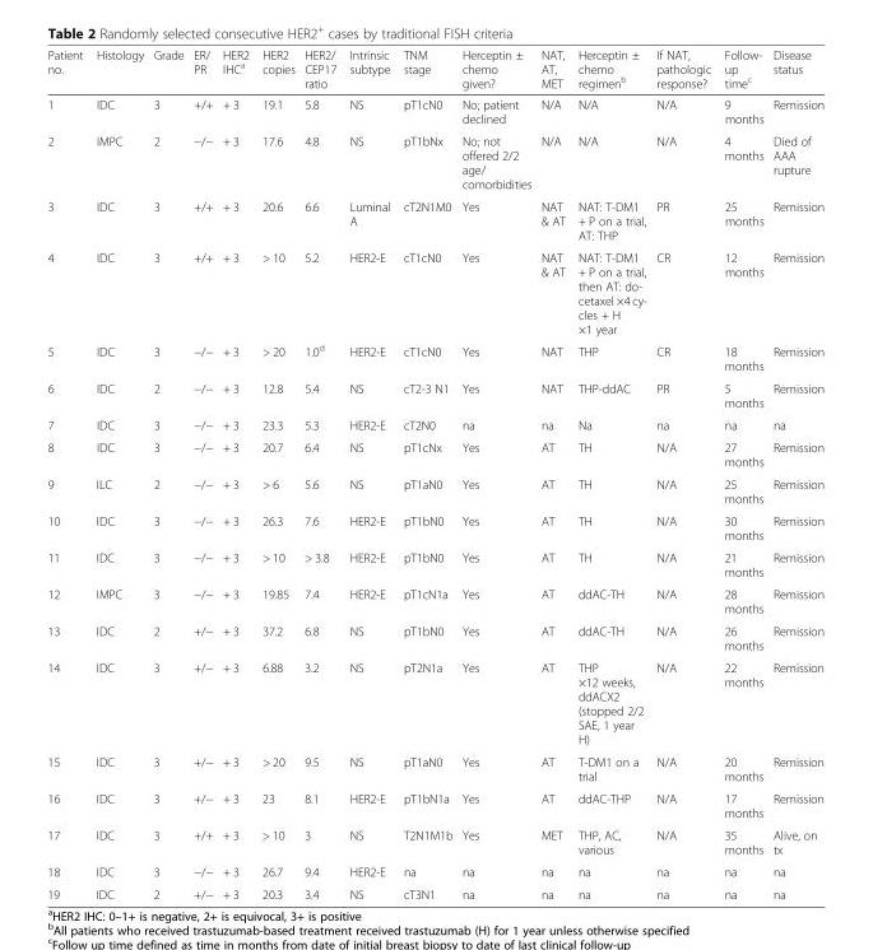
<table><thead><tr><td>Patient no.</td><td>Histology</td><td>Grade</td><td>ER/ PR</td><td>HER2 IHC<sup>a</sup></td><td>HER2 copies</td><td>HER2/ CEP17 ratio</td><td>Intrinsic subtype</td><td>TNM stage</td><td>Herceptin ± chemo given?</td><td>NAT, AT, MET</td><td>Herceptin ± chemo regimen<sup>b</sup></td><td>If NAT, pathologic response?</td><td>Follow- up time<sup>c</sup></td><td>Disease status</td></tr></thead><tbody><tr><td>1</td><td>IDC</td><td>3</td><td>+/+</td><td>+ 3</td><td>19.1</td><td>5.8</td><td>NS</td><td>pT1cN0</td><td>No; patient declined</td><td>N/A</td><td>N/A</td><td>N/A</td><td>9 months</td><td>Remission</td></tr><tr><td>2</td><td>IMPC</td><td>2</td><td>−/−</td><td>+ 3</td><td>17.6</td><td>4.8</td><td>NS</td><td>pT1bNx</td><td>No; not offered 2/2 age/ comorbidities</td><td>N/A</td><td>N/A</td><td>N/A</td><td>4 months</td><td>Died of AAA rupture</td></tr><tr><td>3</td><td>IDC</td><td>3</td><td>+/+</td><td>+ 3</td><td>20.6</td><td>6.6</td><td>Luminal A</td><td>cT2N1M0</td><td>Yes</td><td>NAT &amp; AT</td><td>NAT: T-DM1 + P on a trial, AT: THP</td><td>PR</td><td>25 months</td><td>Remission</td></tr><tr><td>4</td><td>IDC</td><td>3</td><td>+/+</td><td>+ 3</td><td>&gt; 10</td><td>5.2</td><td>HER2-E</td><td>cT1cN0</td><td>Yes</td><td>NAT &amp; AT</td><td>NAT: T-DM1 + P on a trial, then AT: do- cetaxel ×4 cy- cles + H ×1 year</td><td>CR</td><td>12 months</td><td>Remission</td></tr><tr><td>5</td><td>IDC</td><td>3</td><td>−/−</td><td>+ 3</td><td>&gt; 20</td><td>1.0<sup>d</sup></td><td>HER2-E</td><td>cT1cN0</td><td>Yes</td><td>NAT</td><td>THP</td><td>CR</td><td>18 months</td><td>Remission</td></tr><tr><td>6</td><td>IDC</td><td>2</td><td>−/−</td><td>+ 3</td><td>12.8</td><td>5.4</td><td>NS</td><td>cT2-3 N1</td><td>Yes</td><td>NAT</td><td>THP-ddAC</td><td>PR</td><td>5 months</td><td>Remission</td></tr><tr><td>7</td><td>IDC</td><td>3</td><td>−/−</td><td>+ 3</td><td>23.3</td><td>5.3</td><td>HER2-E</td><td>cT2N0</td><td>na</td><td>na</td><td>Na</td><td>na</td><td>na</td><td>na</td></tr><tr><td>8</td><td>IDC</td><td>3</td><td>−/−</td><td>+ 3</td><td>20.7</td><td>6.4</td><td>NS</td><td>pT1cNx</td><td>Yes</td><td>AT</td><td>TH</td><td>N/A</td><td>27 months</td><td>Remission</td></tr><tr><td>9</td><td>ILC</td><td>2</td><td>−/−</td><td>+ 3</td><td>&gt; 6</td><td>5.6</td><td>NS</td><td>pT1aN0</td><td>Yes</td><td>AT</td><td>TH</td><td>N/A</td><td>25 months</td><td>Remission</td></tr><tr><td>10</td><td>IDC</td><td>3</td><td>−/−</td><td>+ 3</td><td>26.3</td><td>7.6</td><td>HER2-E</td><td>pT1bN0</td><td>Yes</td><td>AT</td><td>TH</td><td>N/A</td><td>30 months</td><td>Remission</td></tr><tr><td>11</td><td>IDC</td><td>3</td><td>−/−</td><td>+ 3</td><td>&gt; 10</td><td>&gt; 3.8</td><td>HER2-E</td><td>pT1bN0</td><td>Yes</td><td>AT</td><td>TH</td><td>N/A</td><td>21 months</td><td>Remission</td></tr><tr><td>12</td><td>IMPC</td><td>3</td><td>−/−</td><td>+ 3</td><td>19.85</td><td>7.4</td><td>HER2-E</td><td>pT1cN1a</td><td>Yes</td><td>AT</td><td>ddAC-TH</td><td>N/A</td><td>28 months</td><td>Remission</td></tr><tr><td>13</td><td>IDC</td><td>2</td><td>+/−</td><td>+ 3</td><td>37.2</td><td>6.8</td><td>NS</td><td>pT1bN0</td><td>Yes</td><td>AT</td><td>ddAC-TH</td><td>N/A</td><td>26 months</td><td>Remission</td></tr><tr><td>14</td><td>IDC</td><td>3</td><td>+/−</td><td>+ 3</td><td>6.88</td><td>3.2</td><td>NS</td><td>pT2N1a</td><td>Yes</td><td>AT</td><td>THP ×12 weeks, ddACX2 (stopped 2/2 SAE, 1 year H)</td><td>N/A</td><td>22 months</td><td>Remission</td></tr><tr><td>15</td><td>IDC</td><td>3</td><td>+/−</td><td>+ 3</td><td>&gt; 20</td><td>9.5</td><td>NS</td><td>pT1aN0</td><td>Yes</td><td>AT</td><td>T-DM1 on a trial</td><td>N/A</td><td>20 months</td><td>Remission</td></tr><tr><td>16</td><td>IDC</td><td>3</td><td>+/−</td><td>+ 3</td><td>23</td><td>8.1</td><td>HER2-E</td><td>pT1bN1a</td><td>Yes</td><td>AT</td><td>ddAC-THP</td><td>N/A</td><td>17 months</td><td>Remission</td></tr><tr><td>17</td><td>IDC</td><td>3</td><td>+/+</td><td>+ 3</td><td>&gt; 10</td><td>3</td><td>NS</td><td>T2N1M1b</td><td>Yes</td><td>MET</td><td>THP, AC, various</td><td>N/A</td><td>35 months</td><td>Alive, on tx</td></tr><tr><td>18</td><td>IDC</td><td>3</td><td>−/−</td><td>+ 3</td><td>26.7</td><td>9.4</td><td>HER2-E</td><td>na</td><td>na</td><td>na</td><td>na</td><td>na</td><td>na</td><td>na</td></tr><tr><td>19</td><td>IDC</td><td>2</td><td>+/−</td><td>+ 3</td><td>20.3</td><td>3.4</td><td>NS</td><td>cT3N1</td><td>na</td><td>na</td><td>na</td><td>na</td><td>na</td><td>na</td></tr></tbody></table>